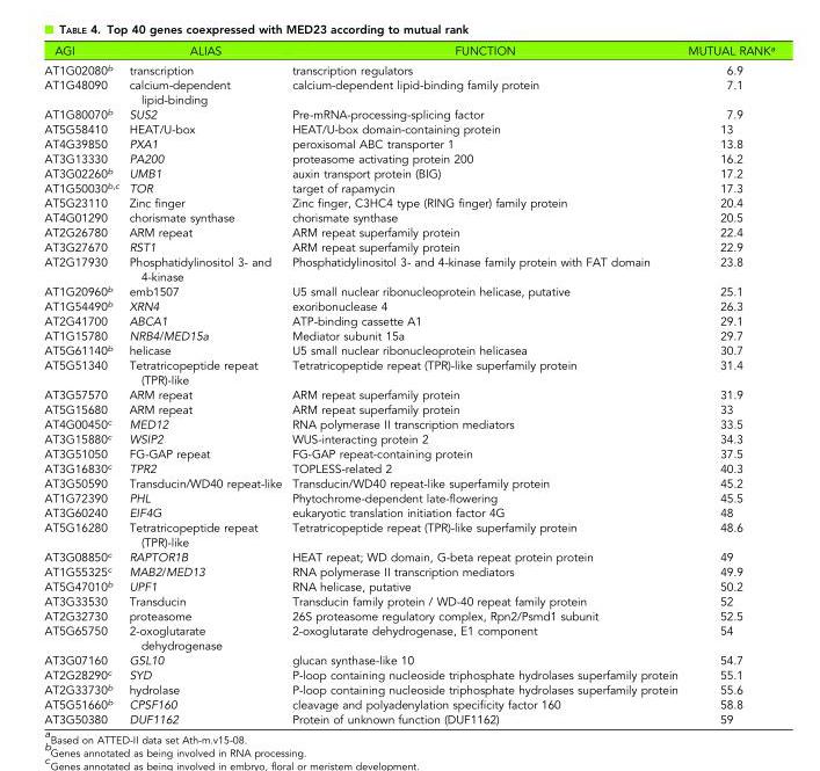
<table><thead><tr><td>AGI</td><td>ALIAS</td><td>FUNCTION</td><td>MUTUAL RANK<sup>a</sup></td></tr></thead><tbody><tr><td>AT1G02080<sup>b</sup></td><td>transcription</td><td>transcription regulators</td><td>6.9</td></tr><tr><td>AT1G48090</td><td>calcium-dependent lipid-binding</td><td>calcium-dependent lipid-binding family protein</td><td>7.1</td></tr><tr><td>AT1G80070<sup>b</sup></td><td>SUS2</td><td>Pre-mRNA-processing-splicing factor</td><td>7.9</td></tr><tr><td>AT5G58410</td><td>HEAT/U-box</td><td>HEAT/U-box domain-containing protein</td><td>13</td></tr><tr><td>AT4G39850</td><td>PXA1</td><td>peroxisomal ABC transporter 1</td><td>13.8</td></tr><tr><td>AT3G13330</td><td>PA200</td><td>proteasome activating protein 200</td><td>16.2</td></tr><tr><td>AT3G02260<sup>b</sup></td><td>UMB1</td><td>auxin transport protein (BIG)</td><td>17.2</td></tr><tr><td>AT1G50030<sup>b,c</sup></td><td>TOR</td><td>target of rapamycin</td><td>17.3</td></tr><tr><td>AT5G23110</td><td>Zinc finger</td><td>Zinc finger, C3HC4 type (RING finger) family protein</td><td>20.4</td></tr><tr><td>AT4G01290</td><td>chorismate synthase</td><td>chorismate synthase</td><td>20.5</td></tr><tr><td>AT2G26780</td><td>ARM repeat</td><td>ARM repeat superfamily protein</td><td>22.4</td></tr><tr><td>AT3G27670</td><td>RST1</td><td>ARM repeat superfamily protein</td><td>22.9</td></tr><tr><td>AT2G17930</td><td>Phosphatidylinositol 3- and 4-kinase</td><td>Phosphatidylinositol 3- and 4-kinase family protein with FAT domain</td><td>23.8</td></tr><tr><td>AT1G20960<sup>b</sup></td><td>emb1507</td><td>U5 small nuclear ribonucleoprotein helicase, putative</td><td>25.1</td></tr><tr><td>AT1G54490<sup>b</sup></td><td>XRN4</td><td>exoribonuclease 4</td><td>26.3</td></tr><tr><td>AT2G41700</td><td>ABCA1</td><td>ATP-binding cassette A1</td><td>29.1</td></tr><tr><td>AT1G15780</td><td>NRB4/MED15a</td><td>Mediator subunit 15a</td><td>29.7</td></tr><tr><td>AT5G61140<sup>b</sup></td><td>helicase</td><td>U5 small nuclear ribonucleoprotein helicasea</td><td>30.7</td></tr><tr><td>AT5G51340</td><td>Tetratricopeptide repeat (TPR)-like</td><td>Tetratricopeptide repeat (TPR)-like superfamily protein</td><td>31.4</td></tr><tr><td>AT3G57570</td><td>ARM repeat</td><td>ARM repeat superfamily protein</td><td>31.9</td></tr><tr><td>AT5G15680</td><td>ARM repeat</td><td>ARM repeat superfamily protein</td><td>33</td></tr><tr><td>AT4G00450<sup>c</sup></td><td>MED12</td><td>RNA polymerase II transcription mediators</td><td>33.5</td></tr><tr><td>AT3G15880<sup>c</sup></td><td>WSIP2</td><td>WUS-interacting protein 2</td><td>34.3</td></tr><tr><td>AT3G51050</td><td>FG-GAP repeat</td><td>FG-GAP repeat-containing protein</td><td>37.5</td></tr><tr><td>AT3G16830<sup>c</sup></td><td>TPR2</td><td>TOPLESS-related 2</td><td>40.3</td></tr><tr><td>AT3G50590</td><td>Transducin/WD40 repeat-like</td><td>Transducin/WD40 repeat-like superfamily protein</td><td>45.2</td></tr><tr><td>AT1G72390</td><td>PHL</td><td>Phytochrome-dependent late-flowering</td><td>45.5</td></tr><tr><td>AT3G60240</td><td>EIF4G</td><td>eukaryotic translation initiation factor 4G</td><td>48</td></tr><tr><td>AT5G16280</td><td>Tetratricopeptide repeat (TPR)-like</td><td>Tetratricopeptide repeat (TPR)-like superfamily protein</td><td>48.6</td></tr><tr><td>AT3G08850<sup>c</sup></td><td>RAPTOR1B</td><td>HEAT repeat; WD domain, G-beta repeat protein protein</td><td>49</td></tr><tr><td>AT1G55325<sup>c</sup></td><td>MAB2/MED13</td><td>RNA polymerase II transcription mediators</td><td>49.9</td></tr><tr><td>AT5G47010<sup>b</sup></td><td>UPF1</td><td>RNA helicase, putative</td><td>50.2</td></tr><tr><td>AT3G33530</td><td>Transducin</td><td>Transducin family protein / WD-40 repeat family protein</td><td>52</td></tr><tr><td>AT2G32730</td><td>proteasome</td><td>26S proteasome regulatory complex, Rpn2/Psmd1 subunit</td><td>52.5</td></tr><tr><td>AT5G65750</td><td>2-oxoglutarate dehydrogenase</td><td>2-oxoglutarate dehydrogenase, E1 component</td><td>54</td></tr><tr><td>AT3G07160</td><td>GSL10</td><td>glucan synthase-like 10</td><td>54.7</td></tr><tr><td>AT2G28290<sup>c</sup></td><td>SYD</td><td>P-loop containing nucleoside triphosphate hydrolases superfamily protein</td><td>55.1</td></tr><tr><td>AT2G33730<sup>b</sup></td><td>hydrolase</td><td>P-loop containing nucleoside triphosphate hydrolases superfamily protein</td><td>55.6</td></tr><tr><td>AT5G51660<sup>b</sup></td><td>CPSF160</td><td>cleavage and polyadenylation specificity factor 160</td><td>58.8</td></tr><tr><td>AT3G50380</td><td>DUF1162</td><td>Protein of unknown function (DUF1162)</td><td>59</td></tr></tbody></table>